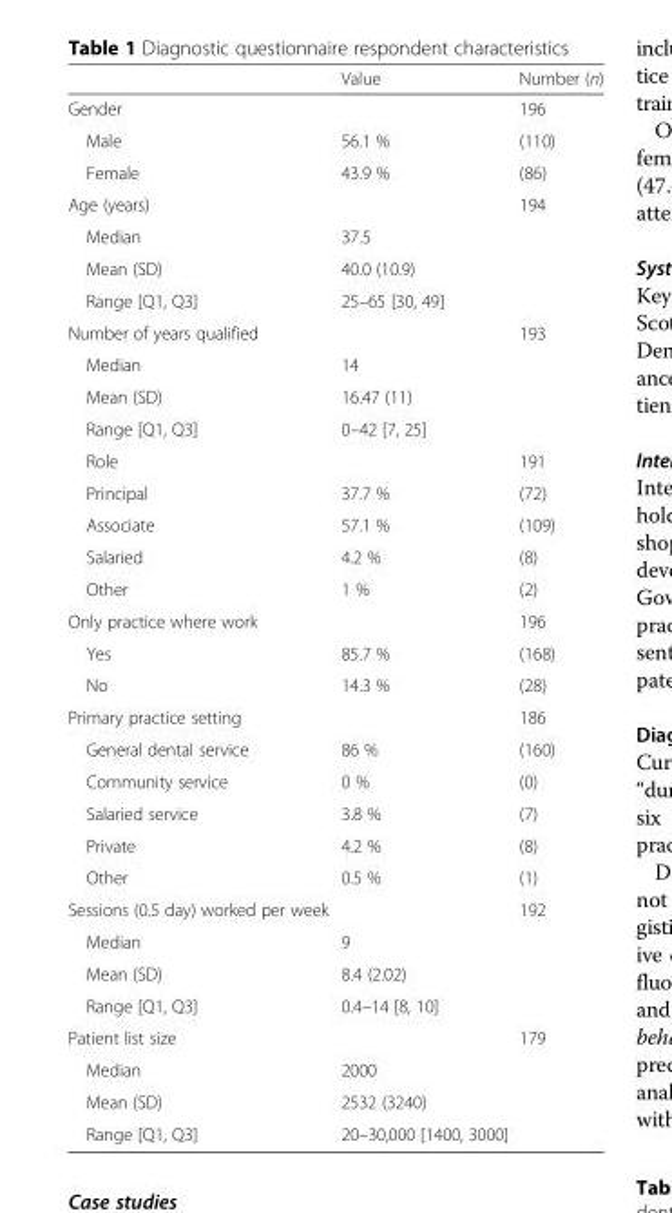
<table><thead><tr><td></td><td>Value</td><td>Number (n)</td></tr></thead><tbody><tr><td>Gender</td><td></td><td>196</td></tr><tr><td>Male</td><td>56.1 %</td><td>(110)</td></tr><tr><td>Female</td><td>43.9 %</td><td>(86)</td></tr><tr><td>Age (years)</td><td></td><td>194</td></tr><tr><td>Median</td><td>37.5</td><td></td></tr><tr><td>Mean (SD)</td><td>40.0 (10.9)</td><td></td></tr><tr><td>Range [Q1, Q3]</td><td colspan="2">25–65 [30, 49]</td></tr><tr><td colspan="2">Number of years qualified</td><td>193</td></tr><tr><td>Median</td><td>14</td><td></td></tr><tr><td>Mean (SD)</td><td>16.47 (11)</td><td></td></tr><tr><td>Range [Q1, Q3]</td><td>0–42 [7, 25]</td><td></td></tr><tr><td>Role</td><td></td><td>191</td></tr><tr><td>Principal</td><td>37.7 %</td><td>(72)</td></tr><tr><td>Associate</td><td>57.1 %</td><td>(109)</td></tr><tr><td>Salaried</td><td>4.2 %</td><td>(8)</td></tr><tr><td>Other</td><td>1 %</td><td>(2)</td></tr><tr><td colspan="2">Only practice where work</td><td>196</td></tr><tr><td>Yes</td><td>85.7 %</td><td>(168)</td></tr><tr><td>No</td><td>14.3 %</td><td>(28)</td></tr><tr><td colspan="2">Primary practice setting</td><td>186</td></tr><tr><td>General dental service</td><td>86 %</td><td>(160)</td></tr><tr><td>Community service</td><td>0 %</td><td>(0)</td></tr><tr><td>Salaried service</td><td>3.8 %</td><td>(7)</td></tr><tr><td>Private</td><td>4.2 %</td><td>(8)</td></tr><tr><td>Other</td><td>0.5 %</td><td>(1)</td></tr><tr><td colspan="2">Sessions (0.5 day) worked per week</td><td>192</td></tr><tr><td>Median</td><td>9</td><td></td></tr><tr><td>Mean (SD)</td><td>8.4 (2.02)</td><td></td></tr><tr><td>Range [Q1, Q3]</td><td colspan="2">0.4–14 [8, 10]</td></tr><tr><td colspan="2">Patient list size</td><td>179</td></tr><tr><td>Median</td><td>2000</td><td></td></tr><tr><td>Mean (SD)</td><td>2532 (3240)</td><td></td></tr><tr><td>Range [Q1, Q3]</td><td colspan="2">20–30,000 [1400, 3000]</td></tr></tbody></table>